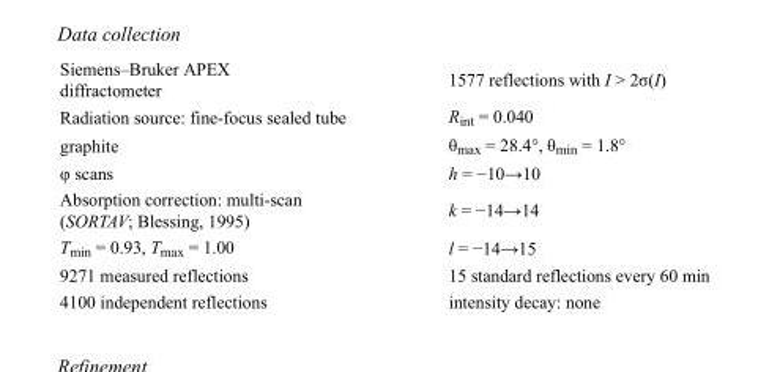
<table><tbody><tr><td>Siemens–Bruker APEX diffractometer</td><td>1577 reflections with I &gt; 2σ(I)</td></tr><tr><td>Radiation source: fine-focus sealed tube</td><td>R<sub>int</sub> = 0.040</td></tr><tr><td>graphite</td><td>θ<sub>max</sub> = 28.4°, θ<sub>min</sub> = 1.8°</td></tr><tr><td>φ scans</td><td>h = −10→10</td></tr><tr><td>Absorption correction: multi-scan (SORTAV; Blessing, 1995)</td><td>k = −14→14</td></tr><tr><td>T<sub>min</sub> = 0.93, T<sub>max</sub> = 1.00</td><td>l = −14→15</td></tr><tr><td>9271 measured reflections</td><td>15 standard reflections every 60 min</td></tr><tr><td>4100 independent reflections</td><td>intensity decay: none</td></tr></tbody></table>